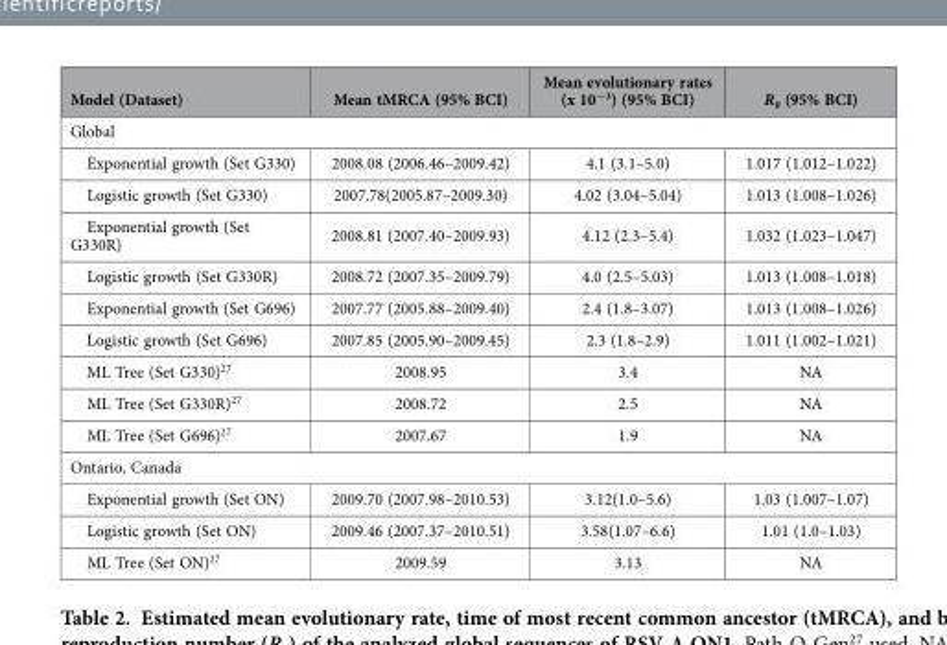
<table><thead><tr><td>Model (Dataset)</td><td>Mean tMRCA (95% BCI)</td><td>Mean evolutionary rates (x 10<sup>−3</sup>) (95% BCI)</td><td>R<sub>0</sub> (95% BCI)</td></tr></thead><tbody><tr><td colspan="4">Global</td></tr><tr><td>Exponential growth (Set G330)</td><td>2008.08 (2006.46–2009.42)</td><td>4.1 (3.1–5.0)</td><td>1.017 (1.012–1.022)</td></tr><tr><td>Logistic growth (Set G330)</td><td>2007.78(2005.87–2009.30)</td><td>4.02 (3.04–5.04)</td><td>1.013 (1.008–1.026)</td></tr><tr><td>Exponential growth (Set G330R)</td><td>2008.81 (2007.40–2009.93)</td><td>4.12 (2.3–5.4)</td><td>1.032 (1.023–1.047)</td></tr><tr><td>Logistic growth (Set G330R)</td><td>2008.72 (2007.35–2009.79)</td><td>4.0 (2.5–5.03)</td><td>1.013 (1.008–1.018)</td></tr><tr><td>Exponential growth (Set G696)</td><td>2007.77 (2005.88–2009.40)</td><td>2.4 (1.8–3.07)</td><td>1.013 (1.008–1.026)</td></tr><tr><td>Logistic growth (Set G696)</td><td>2007.85 (2005.90–2009.45)</td><td>2.3 (1.8–2.9)</td><td>1.011 (1.002–1.021)</td></tr><tr><td>ML Tree (Set G330)<sup>27</sup></td><td>2008.95</td><td>3.4</td><td>NA</td></tr><tr><td>ML Tree (Set G330R)<sup>27</sup></td><td>2008.72</td><td>2.5</td><td>NA</td></tr><tr><td>ML Tree (Set G696)<sup>27</sup></td><td>2007.67</td><td>1.9</td><td>NA</td></tr><tr><td colspan="4">Ontario, Canada</td></tr><tr><td>Exponential growth (Set ON)</td><td>2009.70 (2007.98–2010.53)</td><td>3.12(1.0–5.6)</td><td>1.03 (1.007–1.07)</td></tr><tr><td>Logistic growth (Set ON)</td><td>2009.46 (2007.37–2010.51)</td><td>3.58(1.07–6.6)</td><td>1.01 (1.0–1.03)</td></tr><tr><td>ML Tree (Set ON)<sup>27</sup></td><td>2009.59</td><td>3.13</td><td>NA</td></tr></tbody></table>